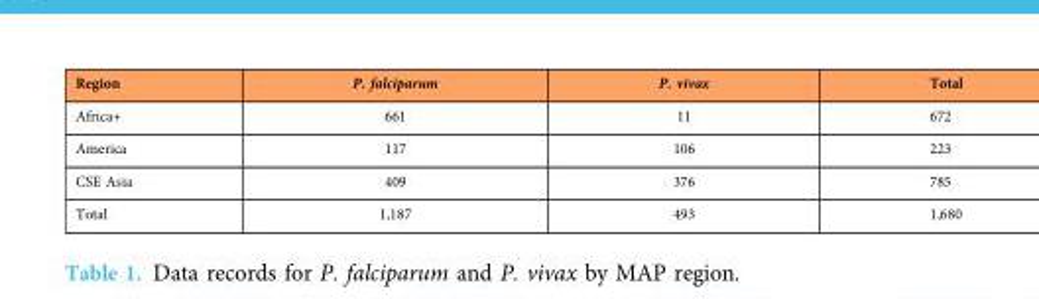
<table><thead><tr><td>Region</td><td>P. falciparum</td><td>P. vivax</td><td>Total</td></tr></thead><tbody><tr><td>Africa+</td><td>661</td><td>11</td><td>672</td></tr><tr><td>America</td><td>117</td><td>106</td><td>223</td></tr><tr><td>CSE Asia</td><td>409</td><td>376</td><td>785</td></tr><tr><td>Total</td><td>1,187</td><td>493</td><td>1,680</td></tr></tbody></table>